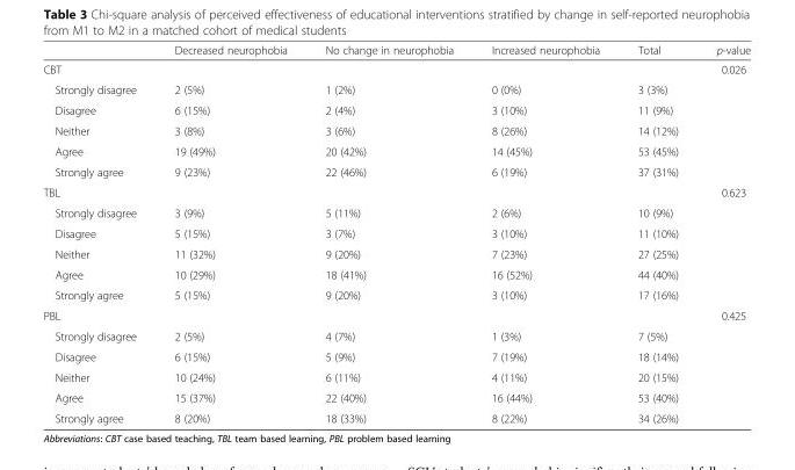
<table><thead><tr><td></td><td>Decreased neurophobia</td><td>No change in neurophobia</td><td>Increased neurophobia</td><td>Total</td><td>p-value</td></tr></thead><tbody><tr><td>CBT</td><td></td><td></td><td></td><td></td><td>0.026</td></tr><tr><td>Strongly disagree</td><td>2 (5%)</td><td>1 (2%)</td><td>0 (0%)</td><td>3 (3%)</td><td></td></tr><tr><td>Disagree</td><td>6 (15%)</td><td>2 (4%)</td><td>3 (10%)</td><td>11 (9%)</td><td></td></tr><tr><td>Neither</td><td>3 (8%)</td><td>3 (6%)</td><td>8 (26%)</td><td>14 (12%)</td><td></td></tr><tr><td>Agree</td><td>19 (49%)</td><td>20 (42%)</td><td>14 (45%)</td><td>53 (45%)</td><td></td></tr><tr><td>Strongly agree</td><td>9 (23%)</td><td>22 (46%)</td><td>6 (19%)</td><td>37 (31%)</td><td></td></tr><tr><td>TBL</td><td></td><td></td><td></td><td></td><td>0.623</td></tr><tr><td>Strongly disagree</td><td>3 (9%)</td><td>5 (11%)</td><td>2 (6%)</td><td>10 (9%)</td><td></td></tr><tr><td>Disagree</td><td>5 (15%)</td><td>3 (7%)</td><td>3 (10%)</td><td>11 (10%)</td><td></td></tr><tr><td>Neither</td><td>11 (32%)</td><td>9 (20%)</td><td>7 (23%)</td><td>27 (25%)</td><td></td></tr><tr><td>Agree</td><td>10 (29%)</td><td>18 (41%)</td><td>16 (52%)</td><td>44 (40%)</td><td></td></tr><tr><td>Strongly agree</td><td>5 (15%)</td><td>9 (20%)</td><td>3 (10%)</td><td>17 (16%)</td><td></td></tr><tr><td>PBL</td><td></td><td></td><td></td><td></td><td>0.425</td></tr><tr><td>Strongly disagree</td><td>2 (5%)</td><td>4 (7%)</td><td>1 (3%)</td><td>7 (5%)</td><td></td></tr><tr><td>Disagree</td><td>6 (15%)</td><td>5 (9%)</td><td>7 (19%)</td><td>18 (14%)</td><td></td></tr><tr><td>Neither</td><td>10 (24%)</td><td>6 (11%)</td><td>4 (11%)</td><td>20 (15%)</td><td></td></tr><tr><td>Agree</td><td>15 (37%)</td><td>22 (40%)</td><td>16 (44%)</td><td>53 (40%)</td><td></td></tr><tr><td>Strongly agree</td><td>8 (20%)</td><td>18 (33%)</td><td>8 (22%)</td><td>34 (26%)</td><td></td></tr></tbody></table>